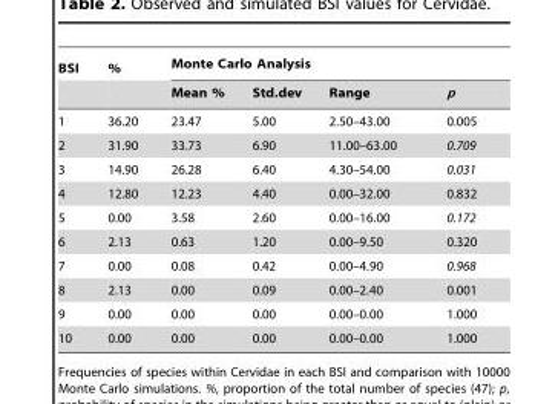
<table><thead><tr><td rowspan="2">BSI</td><td rowspan="2">%</td><td colspan="4">Monte Carlo Analysis</td></tr><tr><td>Mean %</td><td>Std.dev</td><td>Range</td><td>p</td></tr></thead><tbody><tr><td>1</td><td>36.20</td><td>23.47</td><td>5.00</td><td>2.50–43.00</td><td>0.005</td></tr><tr><td>2</td><td>31.90</td><td>33.73</td><td>6.90</td><td>11.00–63.00</td><td>0.709</td></tr><tr><td>3</td><td>14.90</td><td>26.28</td><td>6.40</td><td>4.30–54.00</td><td>0.031</td></tr><tr><td>4</td><td>12.80</td><td>12.23</td><td>4.40</td><td>0.00–32.00</td><td>0.832</td></tr><tr><td>5</td><td>0.00</td><td>3.58</td><td>2.60</td><td>0.00–16.00</td><td>0.172</td></tr><tr><td>6</td><td>2.13</td><td>0.63</td><td>1.20</td><td>0.00–9.50</td><td>0.320</td></tr><tr><td>7</td><td>0.00</td><td>0.08</td><td>0.42</td><td>0.00–4.90</td><td>0.968</td></tr><tr><td>8</td><td>2.13</td><td>0.00</td><td>0.09</td><td>0.00–2.40</td><td>0.001</td></tr><tr><td>9</td><td>0.00</td><td>0.00</td><td>0.00</td><td>0.00–0.00</td><td>1.000</td></tr><tr><td>10</td><td>0.00</td><td>0.00</td><td>0.00</td><td>0.00–0.00</td><td>1.000</td></tr></tbody></table>